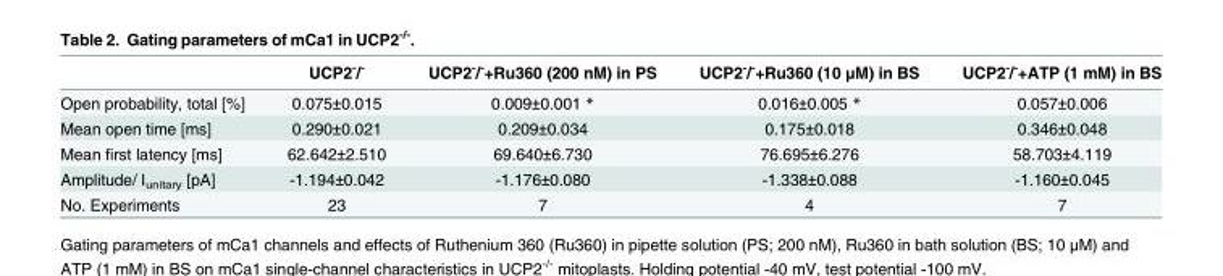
<table><thead><tr><td></td><td>UCP2<sup>-</sup>/<sup>-</sup></td><td>UCP2<sup>-</sup>/<sup>-</sup>+Ru360 (200 nM) in PS</td><td>UCP2<sup>-</sup>/<sup>-</sup>+Ru360 (10 μM) in BS</td><td>UCP2<sup>-</sup>/<sup>-</sup>+ATP (1 mM) in BS</td></tr></thead><tbody><tr><td>Open probability, total [%]</td><td>0.075±0.015</td><td>0.009±0.001 *</td><td>0.016±0.005 *</td><td>0.057±0.006</td></tr><tr><td>Mean open time [ms]</td><td>0.290±0.021</td><td>0.209±0.034</td><td>0.175±0.018</td><td>0.346±0.048</td></tr><tr><td>Mean first latency [ms]</td><td>62.642±2.510</td><td>69.640±6.730</td><td>76.695±6.276</td><td>58.703±4.119</td></tr><tr><td>Amplitude/ I<sub>unitary</sub> [pA]</td><td>-1.194±0.042</td><td>-1.176±0.080</td><td>-1.338±0.088</td><td>-1.160±0.045</td></tr><tr><td>No. Experiments</td><td>23</td><td>7</td><td>4</td><td>7</td></tr></tbody></table>